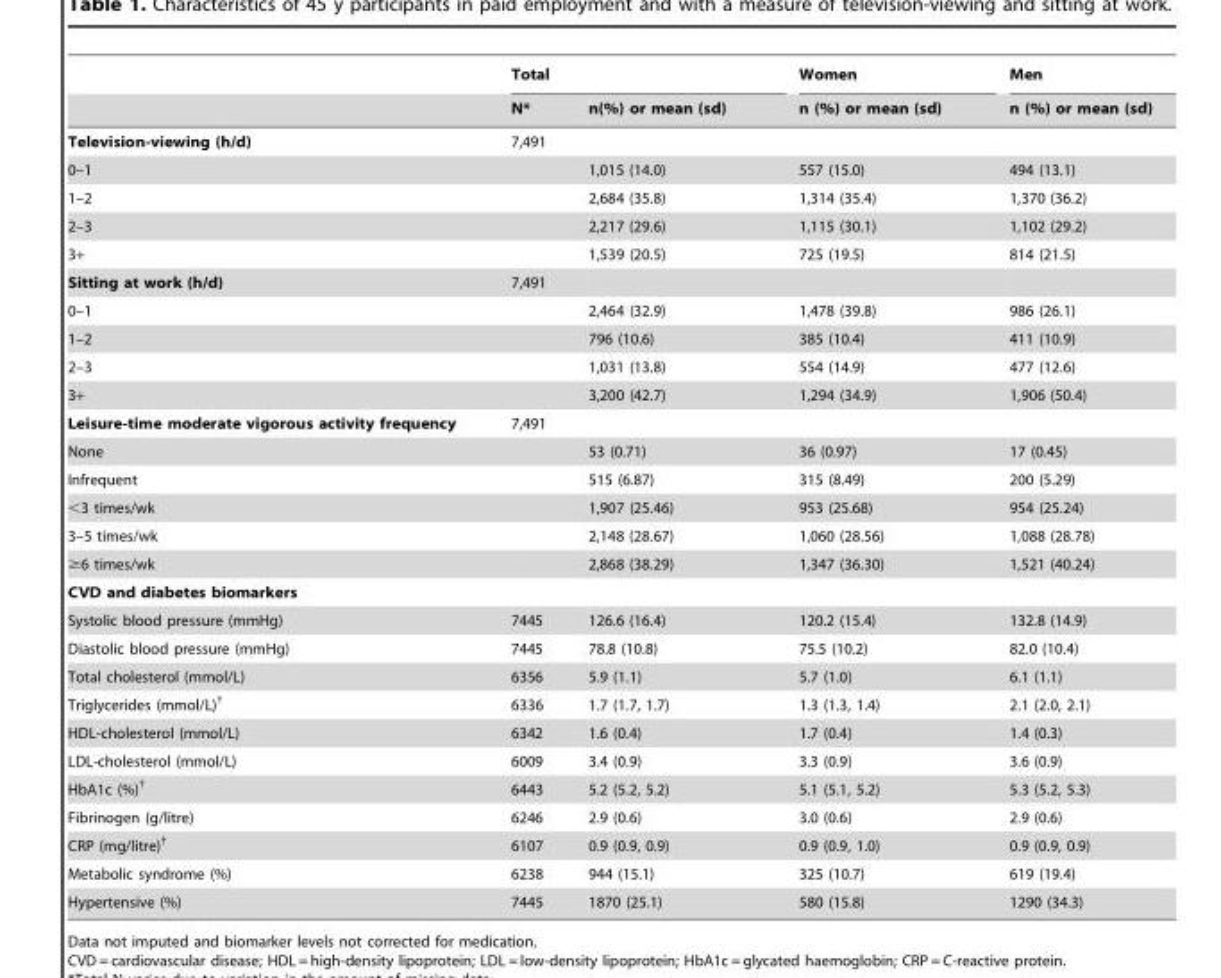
<table><thead><tr><td rowspan="2"></td><td colspan="2">Total</td><td rowspan="2">Women n (%) or mean (sd)</td><td rowspan="2">Men n (%) or mean (sd)</td></tr><tr><td>N*</td><td>n(%) or mean (sd)</td></tr></thead><tbody><tr><td>Television-viewing (h/d)</td><td>7,491</td><td></td><td></td><td></td></tr><tr><td>0–1</td><td></td><td>1,015 (14.0)</td><td>557 (15.0)</td><td>494 (13.1)</td></tr><tr><td>1–2</td><td></td><td>2,684 (35.8)</td><td>1,314 (35.4)</td><td>1,370 (36.2)</td></tr><tr><td>2–3</td><td></td><td>2,217 (29.6)</td><td>1,115 (30.1)</td><td>1,102 (29.2)</td></tr><tr><td>3+</td><td></td><td>1,539 (20.5)</td><td>725 (19.5)</td><td>814 (21.5)</td></tr><tr><td>Sitting at work (h/d)</td><td>7,491</td><td></td><td></td><td></td></tr><tr><td>0–1</td><td></td><td>2,464 (32.9)</td><td>1,478 (39.8)</td><td>986 (26.1)</td></tr><tr><td>1–2</td><td></td><td>796 (10.6)</td><td>385 (10.4)</td><td>411 (10.9)</td></tr><tr><td>2–3</td><td></td><td>1,031 (13.8)</td><td>554 (14.9)</td><td>477 (12.6)</td></tr><tr><td>3+</td><td></td><td>3,200 (42.7)</td><td>1,294 (34.9)</td><td>1,906 (50.4)</td></tr><tr><td>Leisure-time moderate vigorous activity frequency</td><td>7,491</td><td></td><td></td><td></td></tr><tr><td>None</td><td></td><td>53 (0.71)</td><td>36 (0.97)</td><td>17 (0.45)</td></tr><tr><td>Infrequent</td><td></td><td>515 (6.87)</td><td>315 (8.49)</td><td>200 (5.29)</td></tr><tr><td>&lt;3 times/wk</td><td></td><td>1,907 (25.46)</td><td>953 (25.68)</td><td>954 (25.24)</td></tr><tr><td>3–5 times/wk</td><td></td><td>2,148 (28.67)</td><td>1,060 (28.56)</td><td>1,088 (28.78)</td></tr><tr><td>≥6 times/wk</td><td></td><td>2,868 (38.29)</td><td>1,347 (36.30)</td><td>1,521 (40.24)</td></tr><tr><td colspan="5">CVD and diabetes biomarkers</td></tr><tr><td>Systolic blood pressure (mmHg)</td><td>7445</td><td>126.6 (16.4)</td><td>120.2 (15.4)</td><td>132.8 (14.9)</td></tr><tr><td>Diastolic blood pressure (mmHg)</td><td>7445</td><td>78.8 (10.8)</td><td>75.5 (10.2)</td><td>82.0 (10.4)</td></tr><tr><td>Total cholesterol (mmol/L)</td><td>6356</td><td>5.9 (1.1)</td><td>5.7 (1.0)</td><td>6.1 (1.1)</td></tr><tr><td>Triglycerides (mmol/L)†</td><td>6336</td><td>1.7 (1.7, 1.7)</td><td>1.3 (1.3, 1.4)</td><td>2.1 (2.0, 2.1)</td></tr><tr><td>HDL-cholesterol (mmol/L)</td><td>6342</td><td>1.6 (0.4)</td><td>1.7 (0.4)</td><td>1.4 (0.3)</td></tr><tr><td>LDL-cholesterol (mmol/L)</td><td>6009</td><td>3.4 (0.9)</td><td>3.3 (0.9)</td><td>3.6 (0.9)</td></tr><tr><td>HbA1c (%)†</td><td>6443</td><td>5.2 (5.2, 5.2)</td><td>5.1 (5.1, 5.2)</td><td>5.3 (5.2, 5.3)</td></tr><tr><td>Fibrinogen (g/litre)</td><td>6246</td><td>2.9 (0.6)</td><td>3.0 (0.6)</td><td>2.9 (0.6)</td></tr><tr><td>CRP (mg/litre)†</td><td>6107</td><td>0.9 (0.9, 0.9)</td><td>0.9 (0.9, 1.0)</td><td>0.9 (0.9, 0.9)</td></tr><tr><td>Metabolic syndrome (%)</td><td>6238</td><td>944 (15.1)</td><td>325 (10.7)</td><td>619 (19.4)</td></tr><tr><td>Hypertensive (%)</td><td>7445</td><td>1870 (25.1)</td><td>580 (15.8)</td><td>1290 (34.3)</td></tr></tbody></table>